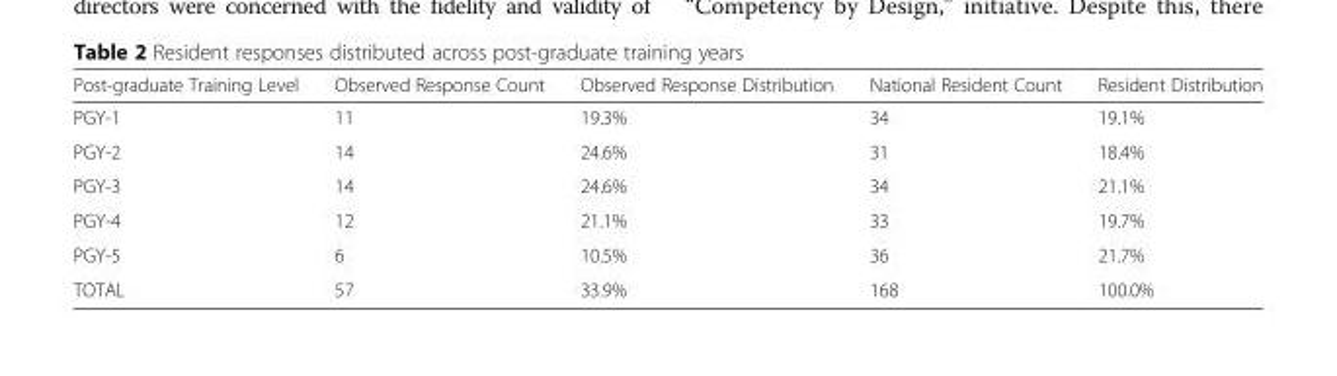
<table><thead><tr><td>Post-graduate Training Level</td><td>Observed Response Count</td><td>Observed Response Distribution</td><td>National Resident Count</td><td>Resident Distribution</td></tr></thead><tbody><tr><td>PGY-1</td><td>11</td><td>19.3%</td><td>34</td><td>19.1%</td></tr><tr><td>PGY-2</td><td>14</td><td>24.6%</td><td>31</td><td>18.4%</td></tr><tr><td>PGY-3</td><td>14</td><td>24.6%</td><td>34</td><td>21.1%</td></tr><tr><td>PGY-4</td><td>12</td><td>21.1%</td><td>33</td><td>19.7%</td></tr><tr><td>PGY-5</td><td>6</td><td>10.5%</td><td>36</td><td>21.7%</td></tr><tr><td>TOTAL</td><td>57</td><td>33.9%</td><td>168</td><td>100.0%</td></tr></tbody></table>